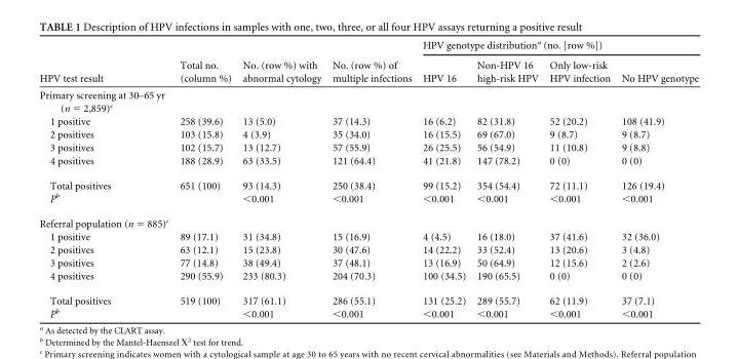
<table><thead><tr><td rowspan="2">HPV test result</td><td rowspan="2">Total no. (column %)</td><td rowspan="2">No. (row %) with abnormal cytology</td><td rowspan="2">No. (row %) of multiple infections</td><td colspan="4">HPV genotype distribution<sup>a</sup> (no. [row %])</td></tr><tr><td>HPV 16</td><td>Non-HPV 16 high-risk HPV</td><td>Only low-risk HPV infection</td><td>No HPV genotype</td></tr></thead><tbody><tr><td colspan="8">Primary screening at 30–65 yr (n = 2,859)<sup>c</sup></td></tr><tr><td>1 positive</td><td>258 (39.6)</td><td>13 (5.0)</td><td>37 (14.3)</td><td>16 (6.2)</td><td>82 (31.8)</td><td>52 (20.2)</td><td>108 (41.9)</td></tr><tr><td>2 positives</td><td>103 (15.8)</td><td>4 (3.9)</td><td>35 (34.0)</td><td>16 (15.5)</td><td>69 (67.0)</td><td>9 (8.7)</td><td>9 (8.7)</td></tr><tr><td>3 positives</td><td>102 (15.7)</td><td>13 (12.7)</td><td>57 (55.9)</td><td>26 (25.5)</td><td>56 (54.9)</td><td>11 (10.8)</td><td>9 (8.8)</td></tr><tr><td>4 positives</td><td>188 (28.9)</td><td>63 (33.5)</td><td>121 (64.4)</td><td>41 (21.8)</td><td>147 (78.2)</td><td>0 (0)</td><td>0 (0)</td></tr><tr><td>Total positives</td><td>651 (100)</td><td>93 (14.3)</td><td>250 (38.4)</td><td>99 (15.2)</td><td>354 (54.4)</td><td>72 (11.1)</td><td>126 (19.4)</td></tr><tr><td>P<sup>b</sup></td><td></td><td>&lt;0.001</td><td>&lt;0.001</td><td>&lt;0.001</td><td>&lt;0.001</td><td>&lt;0.001</td><td>&lt;0.001</td></tr><tr><td colspan="8">Referral population (n = 885)<sup>c</sup></td></tr><tr><td>1 positive</td><td>89 (17.1)</td><td>31 (34.8)</td><td>15 (16.9)</td><td>4 (4.5)</td><td>16 (18.0)</td><td>37 (41.6)</td><td>32 (36.0)</td></tr><tr><td>2 positives</td><td>63 (12.1)</td><td>15 (23.8)</td><td>30 (47.6)</td><td>14 (22.2)</td><td>33 (52.4)</td><td>13 (20.6)</td><td>3 (4.8)</td></tr><tr><td>3 positives</td><td>77 (14.8)</td><td>38 (49.4)</td><td>37 (48.1)</td><td>13 (16.9)</td><td>50 (64.9)</td><td>12 (15.6)</td><td>2 (2.6)</td></tr><tr><td>4 positives</td><td>290 (55.9)</td><td>233 (80.3)</td><td>204 (70.3)</td><td>100 (34.5)</td><td>190 (65.5)</td><td>0 (0)</td><td>0 (0)</td></tr><tr><td>Total positives</td><td>519 (100)</td><td>317 (61.1)</td><td>286 (55.1)</td><td>131 (25.2)</td><td>289 (55.7)</td><td>62 (11.9)</td><td>37 (7.1)</td></tr><tr><td>P<sup>b</sup></td><td></td><td>&lt;0.001</td><td>&lt;0.001</td><td>&lt;0.001</td><td>&lt;0.001</td><td>&lt;0.001</td><td>&lt;0.001</td></tr></tbody></table>